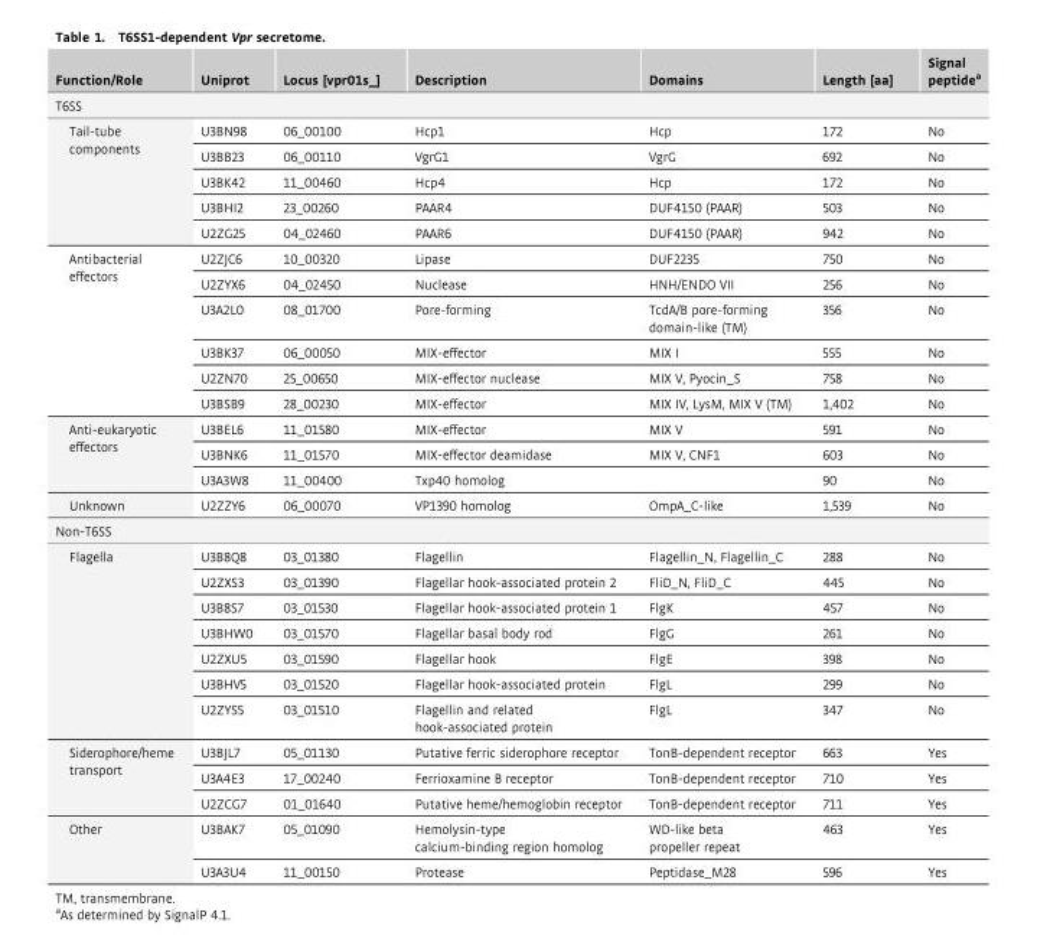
<table><thead><tr><td>Function/Role</td><td>Uniprot</td><td>Locus [vpr01s_]</td><td>Description</td><td>Domains</td><td>Length [aa]</td><td>Signal peptide<sup>a</sup></td></tr></thead><tbody><tr><td colspan="7">T6SS</td></tr><tr><td rowspan="5">Tail-tube components</td><td>U3BN98</td><td>06_00100</td><td>Hcp1</td><td>Hcp</td><td>172</td><td>No</td></tr><tr><td>U3BB23</td><td>06_00110</td><td>VgrG1</td><td>VgrG</td><td>692</td><td>No</td></tr><tr><td>U3BK42</td><td>11_00460</td><td>Hcp4</td><td>Hcp</td><td>172</td><td>No</td></tr><tr><td>U3BHI2</td><td>23_00260</td><td>PAAR4</td><td>DUF4150 (PAAR)</td><td>503</td><td>No</td></tr><tr><td>U2ZG25</td><td>04_02460</td><td>PAAR6</td><td>DUF4150 (PAAR)</td><td>942</td><td>No</td></tr><tr><td rowspan="6">Antibacterial effectors</td><td>U2ZJC6</td><td>10_00320</td><td>Lipase</td><td>DUF2235</td><td>750</td><td>No</td></tr><tr><td>U2ZYX6</td><td>04_02450</td><td>Nuclease</td><td>HNH/ENDO VII</td><td>256</td><td>No</td></tr><tr><td>U3A2L0</td><td>08_01700</td><td>Pore-forming</td><td>TcdA/B pore-forming domain-like (TM)</td><td>356</td><td>No</td></tr><tr><td>U3BK37</td><td>06_00050</td><td>MIX-effector</td><td>MIX I</td><td>555</td><td>No</td></tr><tr><td>U2ZN70</td><td>25_00650</td><td>MIX-effector nuclease</td><td>MIX V, Pyocin_S</td><td>758</td><td>No</td></tr><tr><td>U3BSB9</td><td>28_00230</td><td>MIX-effector</td><td>MIX IV, LysM, MIX V (TM)</td><td>1,402</td><td>No</td></tr><tr><td rowspan="3">Anti-eukaryotic effectors</td><td>U3BEL6</td><td>11_01580</td><td>MIX-effector</td><td>MIX V</td><td>591</td><td>No</td></tr><tr><td>U3BNK6</td><td>11_01570</td><td>MIX-effector deamidase</td><td>MIX V, CNF1</td><td>603</td><td>No</td></tr><tr><td>U3A3W8</td><td>11_00400</td><td>Txp40 homolog</td><td></td><td>90</td><td>No</td></tr><tr><td>Unknown</td><td>U2ZZY6</td><td>06_00070</td><td>VP1390 homolog</td><td>OmpA_C-like</td><td>1,539</td><td>No</td></tr><tr><td colspan="7">Non-T6SS</td></tr><tr><td rowspan="7">Flagella</td><td>U3B8Q8</td><td>03_01380</td><td>Flagellin</td><td>Flagellin_N, Flagellin_C</td><td>288</td><td>No</td></tr><tr><td>U2ZXS3</td><td>03_01390</td><td>Flagellar hook-associated protein 2</td><td>FliD_N, FliD_C</td><td>445</td><td>No</td></tr><tr><td>U3B8S7</td><td>03_01530</td><td>Flagellar hook-associated protein 1</td><td>FlgK</td><td>457</td><td>No</td></tr><tr><td>U3BHW0</td><td>03_01570</td><td>Flagellar basal body rod</td><td>FlgG</td><td>261</td><td>No</td></tr><tr><td>U2ZXU5</td><td>03_01590</td><td>Flagellar hook</td><td>FlgE</td><td>398</td><td>No</td></tr><tr><td>U3BHV5</td><td>03_01520</td><td>Flagellar hook-associated protein</td><td>FlgL</td><td>299</td><td>No</td></tr><tr><td>U2ZYS5</td><td>03_01510</td><td>Flagellin and related hook-associated protein</td><td>FlgL</td><td>347</td><td>No</td></tr><tr><td rowspan="3">Siderophore/heme transport</td><td>U3BJL7</td><td>05_01130</td><td>Putative ferric siderophore receptor</td><td>TonB-dependent receptor</td><td>663</td><td>Yes</td></tr><tr><td>U3A4E3</td><td>17_00240</td><td>Ferrioxamine B receptor</td><td>TonB-dependent receptor</td><td>710</td><td>Yes</td></tr><tr><td>U2ZCG7</td><td>01_01640</td><td>Putative heme/hemoglobin receptor</td><td>TonB-dependent receptor</td><td>711</td><td>Yes</td></tr><tr><td rowspan="2">Other</td><td>U3BAK7</td><td>05_01090</td><td>Hemolysin-type calcium-binding region homolog</td><td>WD-like beta propeller repeat</td><td>463</td><td>Yes</td></tr><tr><td>U3A3U4</td><td>11_00150</td><td>Protease</td><td>Peptidase_M28</td><td>596</td><td>Yes</td></tr></tbody></table>